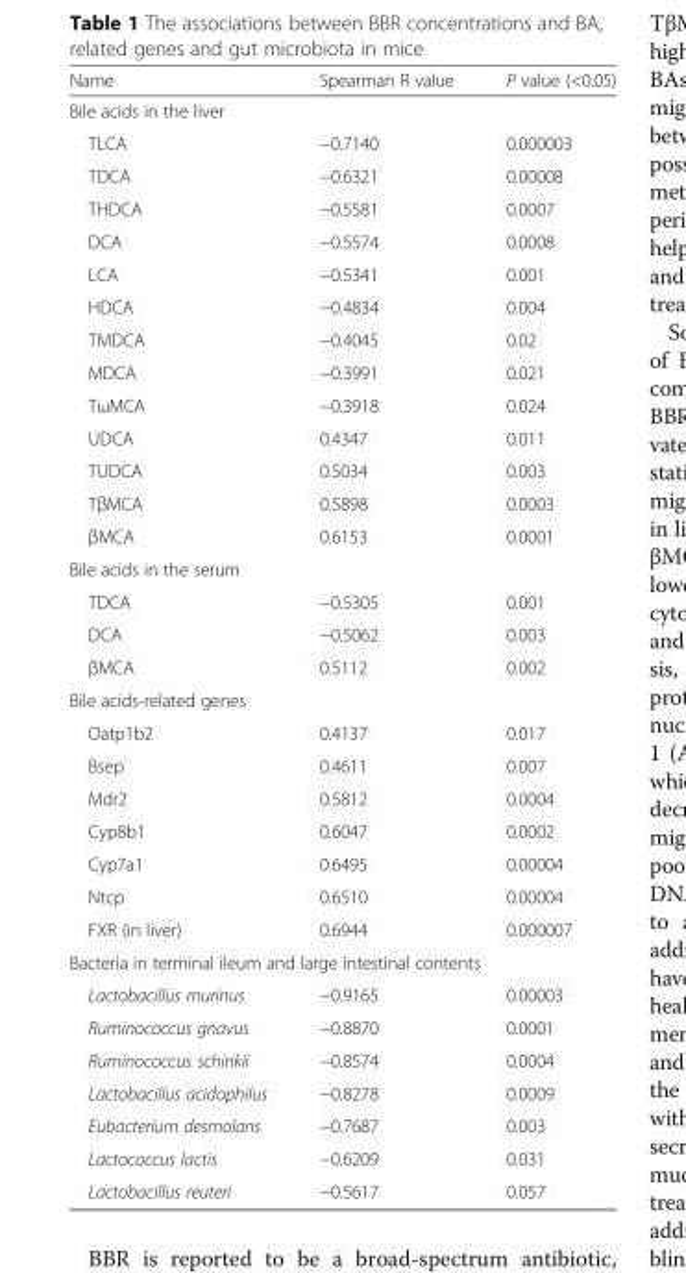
<table><thead><tr><td>Name</td><td>Spearman R value</td><td>P value (&lt;0.05)</td></tr></thead><tbody><tr><td colspan="3">Bile acids in the liver</td></tr><tr><td>TLCA</td><td>−0.7140</td><td>0.000003</td></tr><tr><td>TDCA</td><td>−0.6321</td><td>0.00008</td></tr><tr><td>THDCA</td><td>−0.5581</td><td>0.0007</td></tr><tr><td>DCA</td><td>−0.5574</td><td>0.0008</td></tr><tr><td>LCA</td><td>−0.5341</td><td>0.001</td></tr><tr><td>HDCA</td><td>−0.4834</td><td>0.004</td></tr><tr><td>TMDCA</td><td>−0.4045</td><td>0.02</td></tr><tr><td>MDCA</td><td>−0.3991</td><td>0.021</td></tr><tr><td>TωMCA</td><td>−0.3918</td><td>0.024</td></tr><tr><td>UDCA</td><td>0.4347</td><td>0.011</td></tr><tr><td>TUDCA</td><td>0.5034</td><td>0.003</td></tr><tr><td>TβMCA</td><td>0.5898</td><td>0.0003</td></tr><tr><td>βMCA</td><td>0.6153</td><td>0.0001</td></tr><tr><td colspan="3">Bile acids in the serum</td></tr><tr><td>TDCA</td><td>−0.5305</td><td>0.001</td></tr><tr><td>DCA</td><td>−0.5062</td><td>0.003</td></tr><tr><td>βMCA</td><td>0.5112</td><td>0.002</td></tr><tr><td colspan="3">Bile acids-related genes</td></tr><tr><td>Oatp1b2</td><td>0.4137</td><td>0.017</td></tr><tr><td>Bsep</td><td>0.4611</td><td>0.007</td></tr><tr><td>Mdr2</td><td>0.5812</td><td>0.0004</td></tr><tr><td>Cyp8b1</td><td>0.6047</td><td>0.0002</td></tr><tr><td>Cyp7a1</td><td>0.6495</td><td>0.00004</td></tr><tr><td>Ntcp</td><td>0.6510</td><td>0.00004</td></tr><tr><td>FXR (in liver)</td><td>0.6944</td><td>0.000007</td></tr><tr><td colspan="3">Bacteria in terminal ileum and large intestinal contents</td></tr><tr><td>Lactobacillus murinus</td><td>−0.9165</td><td>0.00003</td></tr><tr><td>Ruminococcus gnavus</td><td>−0.8870</td><td>0.0001</td></tr><tr><td>Ruminococcus schinkii</td><td>−0.8574</td><td>0.0004</td></tr><tr><td>Lactobacillus acidophilus</td><td>−0.8278</td><td>0.0009</td></tr><tr><td>Eubacterium desmolans</td><td>−0.7687</td><td>0.003</td></tr><tr><td>Lactococcus lactis</td><td>−0.6209</td><td>0.031</td></tr><tr><td>Lactobacillus reuteri</td><td>−0.5617</td><td>0.057</td></tr></tbody></table>